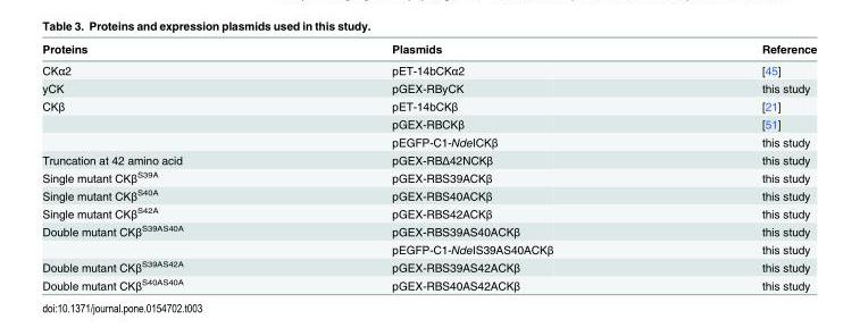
<table><thead><tr><td>Proteins</td><td>Plasmids</td><td>Reference</td></tr></thead><tbody><tr><td>CKα2</td><td>pET-14bCKα2</td><td>[45]</td></tr><tr><td>yCK</td><td>pGEX-RByCK</td><td>this study</td></tr><tr><td rowspan="3">CKβ</td><td>pET-14bCKβ</td><td>[21]</td></tr><tr><td>pGEX-RBCKβ</td><td>[51]</td></tr><tr><td>pEGFP-C1-NdeICKβ</td><td>this study</td></tr><tr><td>Truncation at 42 amino acid</td><td>pGEX-RBΔ42NCKβ</td><td>this study</td></tr><tr><td>Single mutant CKβ<sup>S39A</sup></td><td>pGEX-RBS39ACKβ</td><td>this study</td></tr><tr><td>Single mutant CKβ<sup>S40A</sup></td><td>pGEX-RBS40ACKβ</td><td>this study</td></tr><tr><td>Single mutant CKβ<sup>S42A</sup></td><td>pGEX-RBS42ACKβ</td><td>this study</td></tr><tr><td rowspan="2">Double mutant CKβ<sup>S39AS40A</sup></td><td>pGEX-RBS39AS40ACKβ</td><td>this study</td></tr><tr><td>pEGFP-C1-NdeIS39AS40ACKβ</td><td>this study</td></tr><tr><td>Double mutant CKβ<sup>S39AS42A</sup></td><td>pGEX-RBS39AS42ACKβ</td><td>this study</td></tr><tr><td>Double mutant CKβ<sup>S40AS40A</sup></td><td>pGEX-RBS40AS42ACKβ</td><td>this study</td></tr></tbody></table>